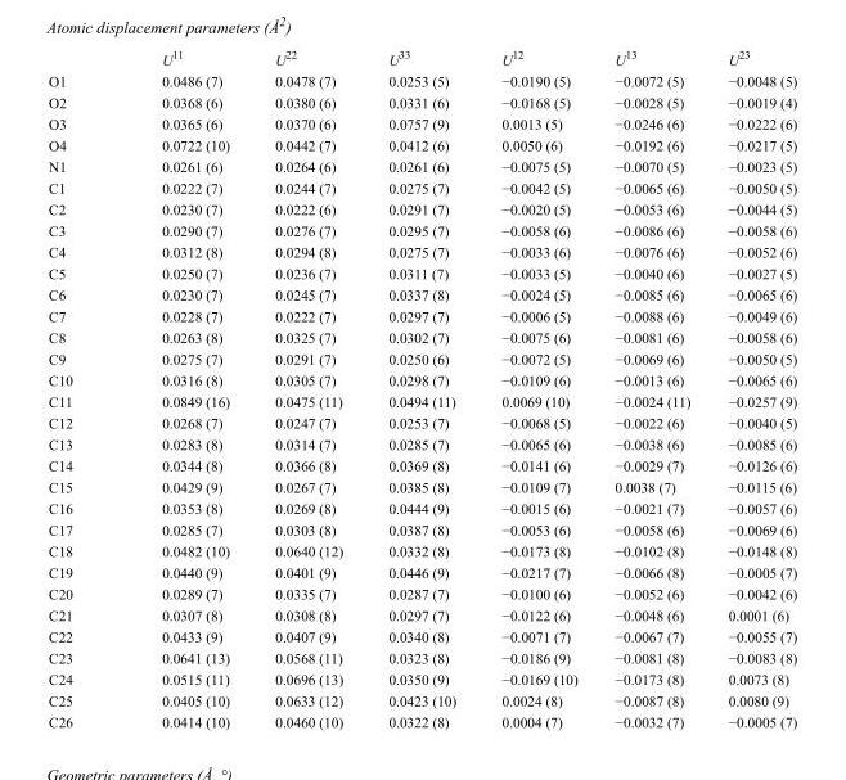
<table><thead><tr><td></td><td>U<sup>11</sup></td><td>U<sup>22</sup></td><td>U<sup>33</sup></td><td>U<sup>12</sup></td><td>U<sup>13</sup></td><td>U<sup>23</sup></td></tr></thead><tbody><tr><td>O1</td><td>0.0486 (7)</td><td>0.0478 (7)</td><td>0.0253 (5)</td><td>−0.0190 (5)</td><td>−0.0072 (5)</td><td>−0.0048 (5)</td></tr><tr><td>O2</td><td>0.0368 (6)</td><td>0.0380 (6)</td><td>0.0331 (6)</td><td>−0.0168 (5)</td><td>−0.0028 (5)</td><td>−0.0019 (4)</td></tr><tr><td>O3</td><td>0.0365 (6)</td><td>0.0370 (6)</td><td>0.0757 (9)</td><td>0.0013 (5)</td><td>−0.0246 (6)</td><td>−0.0222 (6)</td></tr><tr><td>O4</td><td>0.0722 (10)</td><td>0.0442 (7)</td><td>0.0412 (6)</td><td>0.0050 (6)</td><td>−0.0192 (6)</td><td>−0.0217 (5)</td></tr><tr><td>N1</td><td>0.0261 (6)</td><td>0.0264 (6)</td><td>0.0261 (6)</td><td>−0.0075 (5)</td><td>−0.0070 (5)</td><td>−0.0023 (5)</td></tr><tr><td>C1</td><td>0.0222 (7)</td><td>0.0244 (7)</td><td>0.0275 (7)</td><td>−0.0042 (5)</td><td>−0.0065 (6)</td><td>−0.0050 (5)</td></tr><tr><td>C2</td><td>0.0230 (7)</td><td>0.0222 (6)</td><td>0.0291 (7)</td><td>−0.0020 (5)</td><td>−0.0053 (6)</td><td>−0.0044 (5)</td></tr><tr><td>C3</td><td>0.0290 (7)</td><td>0.0276 (7)</td><td>0.0295 (7)</td><td>−0.0058 (6)</td><td>−0.0086 (6)</td><td>−0.0058 (6)</td></tr><tr><td>C4</td><td>0.0312 (8)</td><td>0.0294 (8)</td><td>0.0275 (7)</td><td>−0.0033 (6)</td><td>−0.0076 (6)</td><td>−0.0052 (6)</td></tr><tr><td>C5</td><td>0.0250 (7)</td><td>0.0236 (7)</td><td>0.0311 (7)</td><td>−0.0033 (5)</td><td>−0.0040 (6)</td><td>−0.0027 (5)</td></tr><tr><td>C6</td><td>0.0230 (7)</td><td>0.0245 (7)</td><td>0.0337 (8)</td><td>−0.0024 (5)</td><td>−0.0085 (6)</td><td>−0.0065 (6)</td></tr><tr><td>C7</td><td>0.0228 (7)</td><td>0.0222 (7)</td><td>0.0297 (7)</td><td>−0.0006 (5)</td><td>−0.0088 (6)</td><td>−0.0049 (6)</td></tr><tr><td>C8</td><td>0.0263 (8)</td><td>0.0325 (7)</td><td>0.0302 (7)</td><td>−0.0075 (6)</td><td>−0.0081 (6)</td><td>−0.0058 (6)</td></tr><tr><td>C9</td><td>0.0275 (7)</td><td>0.0291 (7)</td><td>0.0250 (6)</td><td>−0.0072 (5)</td><td>−0.0069 (6)</td><td>−0.0050 (5)</td></tr><tr><td>C10</td><td>0.0316 (8)</td><td>0.0305 (7)</td><td>0.0298 (7)</td><td>−0.0109 (6)</td><td>−0.0013 (6)</td><td>−0.0065 (6)</td></tr><tr><td>C11</td><td>0.0849 (16)</td><td>0.0475 (11)</td><td>0.0494 (11)</td><td>0.0069 (10)</td><td>−0.0024 (11)</td><td>−0.0257 (9)</td></tr><tr><td>C12</td><td>0.0268 (7)</td><td>0.0247 (7)</td><td>0.0253 (7)</td><td>−0.0068 (5)</td><td>−0.0022 (6)</td><td>−0.0040 (5)</td></tr><tr><td>C13</td><td>0.0283 (8)</td><td>0.0314 (7)</td><td>0.0285 (7)</td><td>−0.0065 (6)</td><td>−0.0038 (6)</td><td>−0.0085 (6)</td></tr><tr><td>C14</td><td>0.0344 (8)</td><td>0.0366 (8)</td><td>0.0369 (8)</td><td>−0.0141 (6)</td><td>−0.0029 (7)</td><td>−0.0126 (6)</td></tr><tr><td>C15</td><td>0.0429 (9)</td><td>0.0267 (7)</td><td>0.0385 (8)</td><td>−0.0109 (7)</td><td>0.0038 (7)</td><td>−0.0115 (6)</td></tr><tr><td>C16</td><td>0.0353 (8)</td><td>0.0269 (8)</td><td>0.0444 (9)</td><td>−0.0015 (6)</td><td>−0.0021 (7)</td><td>−0.0057 (6)</td></tr><tr><td>C17</td><td>0.0285 (7)</td><td>0.0303 (8)</td><td>0.0387 (8)</td><td>−0.0053 (6)</td><td>−0.0058 (6)</td><td>−0.0069 (6)</td></tr><tr><td>C18</td><td>0.0482 (10)</td><td>0.0640 (12)</td><td>0.0332 (8)</td><td>−0.0173 (8)</td><td>−0.0102 (8)</td><td>−0.0148 (8)</td></tr><tr><td>C19</td><td>0.0440 (9)</td><td>0.0401 (9)</td><td>0.0446 (9)</td><td>−0.0217 (7)</td><td>−0.0066 (8)</td><td>−0.0005 (7)</td></tr><tr><td>C20</td><td>0.0289 (7)</td><td>0.0335 (7)</td><td>0.0287 (7)</td><td>−0.0100 (6)</td><td>−0.0052 (6)</td><td>−0.0042 (6)</td></tr><tr><td>C21</td><td>0.0307 (8)</td><td>0.0308 (8)</td><td>0.0297 (7)</td><td>−0.0122 (6)</td><td>−0.0048 (6)</td><td>0.0001 (6)</td></tr><tr><td>C22</td><td>0.0433 (9)</td><td>0.0407 (9)</td><td>0.0340 (8)</td><td>−0.0071 (7)</td><td>−0.0067 (7)</td><td>−0.0055 (7)</td></tr><tr><td>C23</td><td>0.0641 (13)</td><td>0.0568 (11)</td><td>0.0323 (8)</td><td>−0.0186 (9)</td><td>−0.0081 (8)</td><td>−0.0083 (8)</td></tr><tr><td>C24</td><td>0.0515 (11)</td><td>0.0696 (13)</td><td>0.0350 (9)</td><td>−0.0169 (10)</td><td>−0.0173 (8)</td><td>0.0073 (8)</td></tr><tr><td>C25</td><td>0.0405 (10)</td><td>0.0633 (12)</td><td>0.0423 (10)</td><td>0.0024 (8)</td><td>−0.0087 (8)</td><td>0.0080 (9)</td></tr><tr><td>C26</td><td>0.0414 (10)</td><td>0.0460 (10)</td><td>0.0322 (8)</td><td>0.0004 (7)</td><td>−0.0032 (7)</td><td>−0.0005 (7)</td></tr></tbody></table>